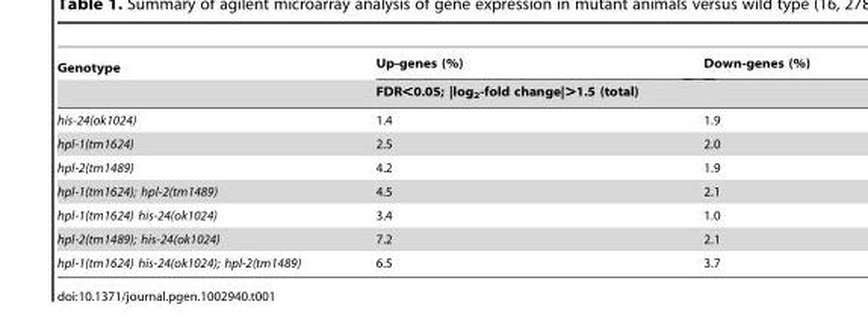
<table><thead><tr><td rowspan="2">Genotype</td><td>Up-genes (%)</td><td>Down-genes (%)</td></tr><tr><td colspan="2">FDR&lt;0.05; |log<sub>2</sub>-fold change|&gt;1.5 (total)</td></tr></thead><tbody><tr><td>his-24(ok1024)</td><td>1.4</td><td>1.9</td></tr><tr><td>hpl-1(tm1624)</td><td>2.5</td><td>2.0</td></tr><tr><td>hpl-2(tm1489)</td><td>4.2</td><td>1.9</td></tr><tr><td>hpl-1(tm1624); hpl-2(tm1489)</td><td>4.5</td><td>2.1</td></tr><tr><td>hpl-1(tm1624) his-24(ok1024)</td><td>3.4</td><td>1.0</td></tr><tr><td>hpl-2(tm1489); his-24(ok1024)</td><td>7.2</td><td>2.1</td></tr><tr><td>hpl-1(tm1624) his-24(ok1024); hpl-2(tm1489)</td><td>6.5</td><td>3.7</td></tr></tbody></table>